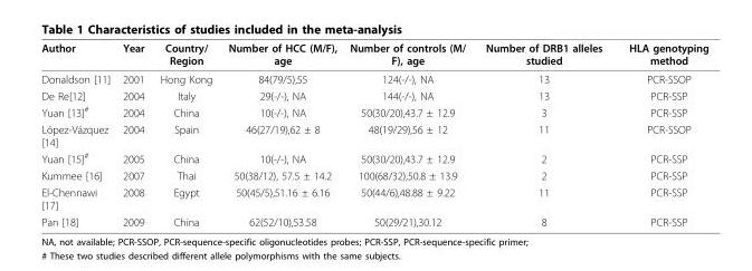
<table><thead><tr><td>Author</td><td>Year</td><td>Country/ Region</td><td>Number of HCC (M/F), age</td><td>Number of controls (M/ F), age</td><td>Number of DRB1 alleles studied</td><td>HLA genotyping method</td></tr></thead><tbody><tr><td>Donaldson [11]</td><td>2001</td><td>Hong Kong</td><td>84(79/5),55</td><td>124(-/-), NA</td><td>13</td><td>PCR-SSOP</td></tr><tr><td>De Re[12]</td><td>2004</td><td>Italy</td><td>29(-/-), NA</td><td>144(-/-), NA</td><td>13</td><td>PCR-SSP</td></tr><tr><td>Yuan [13]<sup>#</sup></td><td>2004</td><td>China</td><td>10(-/-), NA</td><td>50(30/20),43.7 ± 12.9</td><td>3</td><td>PCR-SSP</td></tr><tr><td>López-Vázquez [14]</td><td>2004</td><td>Spain</td><td>46(27/19),62 ± 8</td><td>48(19/29),56 ± 12</td><td>11</td><td>PCR-SSOP</td></tr><tr><td>Yuan [15]<sup>#</sup></td><td>2005</td><td>China</td><td>10(-/-), NA</td><td>50(30/20),43.7 ± 12.9</td><td>2</td><td>PCR-SSP</td></tr><tr><td>Kummee [16]</td><td>2007</td><td>Thai</td><td>50(38/12), 57.5 ± 14.2</td><td>100(68/32),50.8 ± 13.9</td><td>2</td><td>PCR-SSP</td></tr><tr><td>El-Chennawi [17]</td><td>2008</td><td>Egypt</td><td>50(45/5),51.16 ± 6.16</td><td>50(44/6),48.88 ± 9.22</td><td>11</td><td>PCR-SSP</td></tr><tr><td>Pan [18]</td><td>2009</td><td>China</td><td>62(52/10),53.58</td><td>50(29/21),30.12</td><td>8</td><td>PCR-SSP</td></tr></tbody></table>